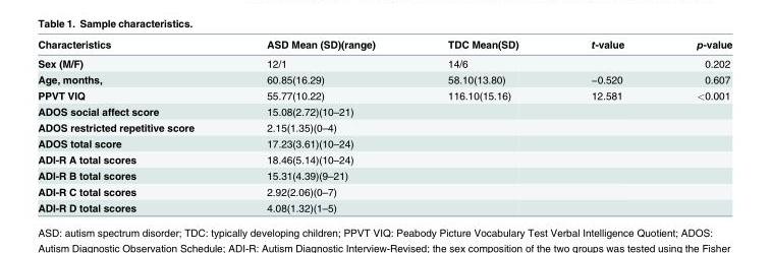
<table><thead><tr><td>Characteristics</td><td>ASD Mean (SD)(range)</td><td>TDC Mean(SD)</td><td>t-value</td><td>p-value</td></tr></thead><tbody><tr><td>Sex (M/F)</td><td>12/1</td><td>14/6</td><td></td><td>0.202</td></tr><tr><td>Age, months,</td><td>60.85(16.29)</td><td>58.10(13.80)</td><td>−0.520</td><td>0.607</td></tr><tr><td>PPVT VIQ</td><td>55.77(10.22)</td><td>116.10(15.16)</td><td>12.581</td><td>&lt;0.001</td></tr><tr><td>ADOS social affect score</td><td>15.08(2.72)(10–21)</td><td></td><td></td><td></td></tr><tr><td>ADOS restricted repetitive score</td><td>2.15(1.35)(0–4)</td><td></td><td></td><td></td></tr><tr><td>ADOS total score</td><td>17.23(3.61)(10–24)</td><td></td><td></td><td></td></tr><tr><td>ADI-R A total scores</td><td>18.46(5.14)(10–24)</td><td></td><td></td><td></td></tr><tr><td>ADI-R B total scores</td><td>15.31(4.39)(9–21)</td><td></td><td></td><td></td></tr><tr><td>ADI-R C total scores</td><td>2.92(2.06)(0–7)</td><td></td><td></td><td></td></tr><tr><td>ADI-R D total scores</td><td>4.08(1.32)(1–5)</td><td></td><td></td><td></td></tr></tbody></table>